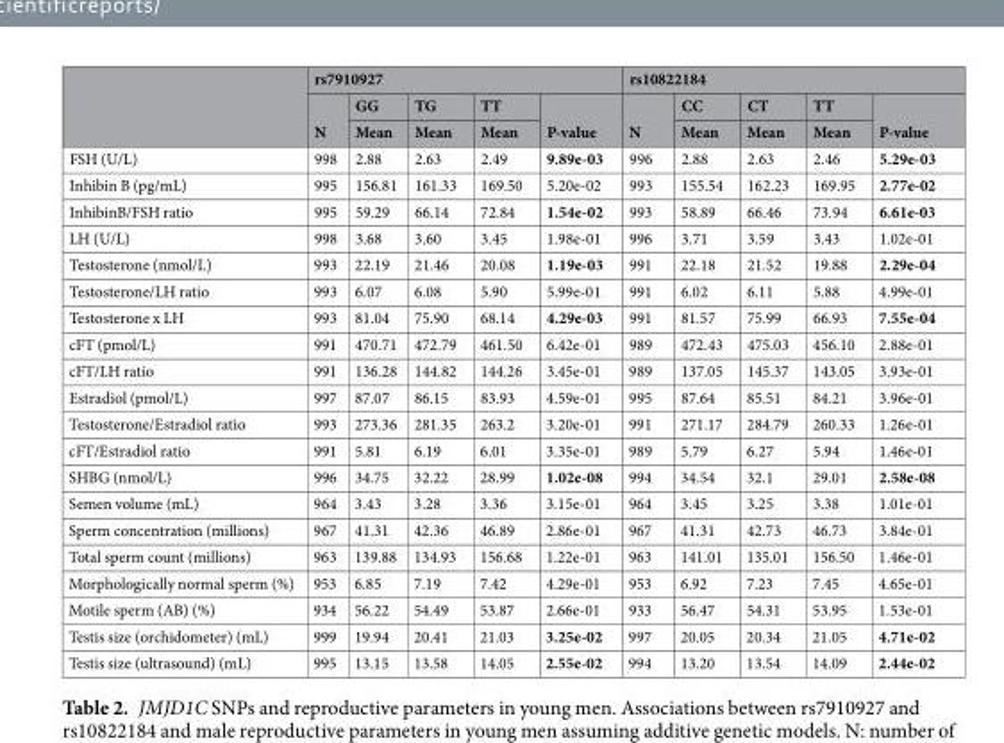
<table><thead><tr><td rowspan="3"></td><td colspan="5">rs7910927</td><td colspan="5">rs10822184</td></tr><tr><td rowspan="2">N</td><td rowspan="2">GG Mean</td><td rowspan="2">TG Mean</td><td rowspan="2">TT Mean</td><td rowspan="2">P-value</td><td rowspan="2">N</td><td rowspan="2">CC Mean</td><td rowspan="2">CT Mean</td><td rowspan="2">TT Mean</td><td rowspan="2">P-value</td></tr><tr></tr></thead><tbody><tr><td>FSH (U/L)</td><td>998</td><td>2.88</td><td>2.63</td><td>2.49</td><td>9.89e-03</td><td>996</td><td>2.88</td><td>2.63</td><td>2.46</td><td>5.29e-03</td></tr><tr><td>Inhibin B (pg/mL)</td><td>995</td><td>156.81</td><td>161.33</td><td>169.50</td><td>5.20e-02</td><td>993</td><td>155.54</td><td>162.23</td><td>169.95</td><td>2.77e-02</td></tr><tr><td>InhibinB/FSH ratio</td><td>995</td><td>59.29</td><td>66.14</td><td>72.84</td><td>1.54e-02</td><td>993</td><td>58.89</td><td>66.46</td><td>73.94</td><td>6.61e-03</td></tr><tr><td>LH (U/L)</td><td>998</td><td>3.68</td><td>3.60</td><td>3.45</td><td>1.98e-01</td><td>996</td><td>3.71</td><td>3.59</td><td>3.43</td><td>1.02e-01</td></tr><tr><td>Testosterone (nmol/L)</td><td>993</td><td>22.19</td><td>21.46</td><td>20.08</td><td>1.19e-03</td><td>991</td><td>22.18</td><td>21.52</td><td>19.88</td><td>2.29e-04</td></tr><tr><td>Testosterone/LH ratio</td><td>993</td><td>6.07</td><td>6.08</td><td>5.90</td><td>5.99e-01</td><td>991</td><td>6.02</td><td>6.11</td><td>5.88</td><td>4.99e-01</td></tr><tr><td>Testosterone x LH</td><td>993</td><td>81.04</td><td>75.90</td><td>68.14</td><td>4.29e-03</td><td>991</td><td>81.57</td><td>75.99</td><td>66.93</td><td>7.55e-04</td></tr><tr><td>cFT (pmol/L)</td><td>991</td><td>470.71</td><td>472.79</td><td>461.50</td><td>6.42e-01</td><td>989</td><td>472.43</td><td>475.03</td><td>456.10</td><td>2.88e-01</td></tr><tr><td>cFT/LH ratio</td><td>991</td><td>136.28</td><td>144.82</td><td>144.26</td><td>3.45e-01</td><td>989</td><td>137.05</td><td>145.37</td><td>143.05</td><td>3.93e-01</td></tr><tr><td>Estradiol (pmol/L)</td><td>997</td><td>87.07</td><td>86.15</td><td>83.93</td><td>4.59e-01</td><td>995</td><td>87.64</td><td>85.51</td><td>84.21</td><td>3.96e-01</td></tr><tr><td>Testosterone/Estradiol ratio</td><td>993</td><td>273.36</td><td>281.35</td><td>263.2</td><td>3.20e-01</td><td>991</td><td>271.17</td><td>284.79</td><td>260.33</td><td>1.26e-01</td></tr><tr><td>cFT/Estradiol ratio</td><td>991</td><td>5.81</td><td>6.19</td><td>6.01</td><td>3.35e-01</td><td>989</td><td>5.79</td><td>6.27</td><td>5.94</td><td>1.46e-01</td></tr><tr><td>SHBG (nmol/L)</td><td>996</td><td>34.75</td><td>32.22</td><td>28.99</td><td>1.02e-08</td><td>994</td><td>34.54</td><td>32.1</td><td>29.01</td><td>2.58e-08</td></tr><tr><td>Semen volume (mL)</td><td>964</td><td>3.43</td><td>3.28</td><td>3.36</td><td>3.15e-01</td><td>964</td><td>3.45</td><td>3.25</td><td>3.38</td><td>1.01e-01</td></tr><tr><td>Sperm concentration (millions)</td><td>967</td><td>41.31</td><td>42.36</td><td>46.89</td><td>2.86e-01</td><td>967</td><td>41.31</td><td>42.73</td><td>46.73</td><td>3.84e-01</td></tr><tr><td>Total sperm count (millions)</td><td>963</td><td>139.88</td><td>134.93</td><td>156.68</td><td>1.22e-01</td><td>963</td><td>141.01</td><td>135.01</td><td>156.50</td><td>1.46e-01</td></tr><tr><td>Morphologically normal sperm (%)</td><td>953</td><td>6.85</td><td>7.19</td><td>7.42</td><td>4.29e-01</td><td>953</td><td>6.92</td><td>7.23</td><td>7.45</td><td>4.65e-01</td></tr><tr><td>Motile sperm (AB) (%)</td><td>934</td><td>56.22</td><td>54.49</td><td>53.87</td><td>2.66e-01</td><td>933</td><td>56.47</td><td>54.31</td><td>53.95</td><td>1.53e-01</td></tr><tr><td>Testis size (orchidometer) (mL)</td><td>999</td><td>19.94</td><td>20.41</td><td>21.03</td><td>3.25e-02</td><td>997</td><td>20.05</td><td>20.34</td><td>21.05</td><td>4.71e-02</td></tr><tr><td>Testis size (ultrasound) (mL)</td><td>995</td><td>13.15</td><td>13.58</td><td>14.05</td><td>2.55e-02</td><td>994</td><td>13.20</td><td>13.54</td><td>14.09</td><td>2.44e-02</td></tr></tbody></table>